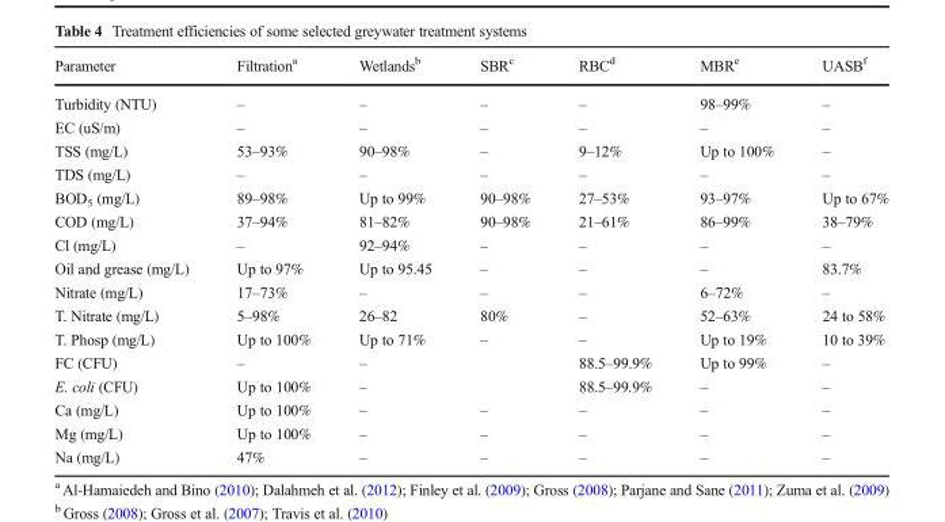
<table><thead><tr><td>Parameter</td><td>Filtration<sup>a</sup></td><td>Wetlands<sup>b</sup></td><td>SBR<sup>c</sup></td><td>RBC<sup>d</sup></td><td>MBR<sup>e</sup></td><td>UASB<sup>f</sup></td></tr></thead><tbody><tr><td>Turbidity (NTU)</td><td>–</td><td>–</td><td>–</td><td>–</td><td>98–99%</td><td>–</td></tr><tr><td>EC (uS/m)</td><td>–</td><td>–</td><td>–</td><td>–</td><td>–</td><td>–</td></tr><tr><td>TSS (mg/L)</td><td>53–93%</td><td>90–98%</td><td>–</td><td>9–12%</td><td>Up to 100%</td><td>–</td></tr><tr><td>TDS (mg/L)</td><td>–</td><td>–</td><td>–</td><td>–</td><td>–</td><td>–</td></tr><tr><td>BOD<sub>5</sub> (mg/L)</td><td>89–98%</td><td>Up to 99%</td><td>90–98%</td><td>27–53%</td><td>93–97%</td><td>Up to 67%</td></tr><tr><td>COD (mg/L)</td><td>37–94%</td><td>81–82%</td><td>90–98%</td><td>21–61%</td><td>86–99%</td><td>38–79%</td></tr><tr><td>Cl (mg/L)</td><td>–</td><td>92–94%</td><td>–</td><td>–</td><td>–</td><td>–</td></tr><tr><td>Oil and grease (mg/L)</td><td>Up to 97%</td><td>Up to 95.45</td><td>–</td><td>–</td><td>–</td><td>83.7%</td></tr><tr><td>Nitrate (mg/L)</td><td>17–73%</td><td>–</td><td>–</td><td>–</td><td>6–72%</td><td>–</td></tr><tr><td>T. Nitrate (mg/L)</td><td>5–98%</td><td>26–82</td><td>80%</td><td>–</td><td>52–63%</td><td>24 to 58%</td></tr><tr><td>T. Phosp (mg/L)</td><td>Up to 100%</td><td>Up to 71%</td><td>–</td><td>–</td><td>Up to 19%</td><td>10 to 39%</td></tr><tr><td>FC (CFU)</td><td>–</td><td>–</td><td></td><td>88.5–99.9%</td><td>Up to 99%</td><td>–</td></tr><tr><td>E. coli (CFU)</td><td>Up to 100%</td><td>–</td><td></td><td>88.5–99.9%</td><td>–</td><td>–</td></tr><tr><td>Ca (mg/L)</td><td>Up to 100%</td><td>–</td><td>–</td><td>–</td><td>–</td><td>–</td></tr><tr><td>Mg (mg/L)</td><td>Up to 100%</td><td>–</td><td>–</td><td>–</td><td>–</td><td>–</td></tr><tr><td>Na (mg/L)</td><td>47%</td><td>–</td><td>–</td><td>–</td><td>–</td><td>–</td></tr></tbody></table>